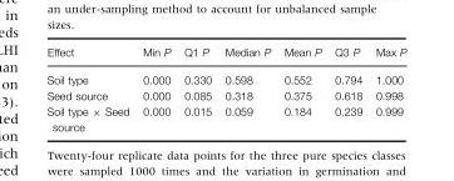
<table><thead><tr><td>Effect</td><td>Min P</td><td>Q1 P</td><td>Median P</td><td>Mean P</td><td>Q3 P</td><td>Max P</td></tr></thead><tbody><tr><td>Soil type</td><td>0.000</td><td>0.330</td><td>0.598</td><td>0.552</td><td>0.794</td><td>1.000</td></tr><tr><td>Seed source</td><td>0.000</td><td>0.085</td><td>0.318</td><td>0.375</td><td>0.618</td><td>0.998</td></tr><tr><td>Soil type × Seed source</td><td>0.000</td><td>0.015</td><td>0.059</td><td>0.184</td><td>0.239</td><td>0.999</td></tr></tbody></table>